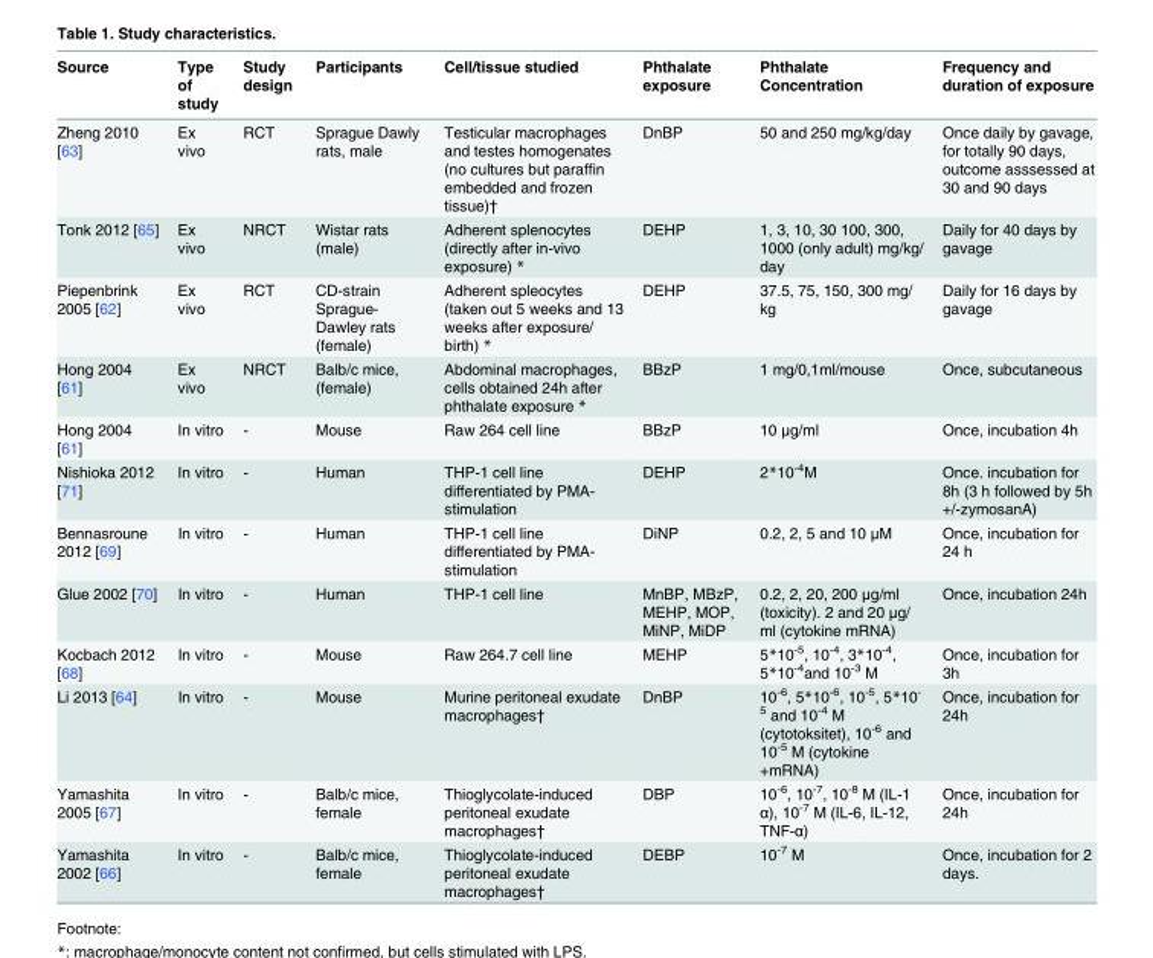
<table><thead><tr><td>Source</td><td>Type of study</td><td>Study design</td><td>Participants</td><td>Cell/tissue studied</td><td>Phthalate exposure</td><td>Phthalate Concentration</td><td>Frequency and duration of exposure</td></tr></thead><tbody><tr><td>Zheng 2010 [63]</td><td>Ex vivo</td><td>RCT</td><td>Sprague Dawly rats, male</td><td>Testicular macrophages and testes homogenates (no cultures but paraffin embedded and frozen tissue)†</td><td>DnBP</td><td>50 and 250 mg/kg/day</td><td>Once daily by gavage, for totally 90 days, outcome asssessed at 30 and 90 days</td></tr><tr><td>Tonk 2012 [65]</td><td>Ex vivo</td><td>NRCT</td><td>Wistar rats (male)</td><td>Adherent splenocytes (directly after in-vivo exposure) *</td><td>DEHP</td><td>1, 3, 10, 30 100, 300, 1000 (only adult) mg/kg/ day</td><td>Daily for 40 days by gavage</td></tr><tr><td>Piepenbrink 2005 [62]</td><td>Ex vivo</td><td>RCT</td><td>CD-strain Sprague- Dawley rats (female)</td><td>Adherent spleocytes (taken out 5 weeks and 13 weeks after exposure/ birth) *</td><td>DEHP</td><td>37.5, 75, 150, 300 mg/ kg</td><td>Daily for 16 days by gavage</td></tr><tr><td>Hong 2004 [61]</td><td>Ex vivo</td><td>NRCT</td><td>Balb/c mice, (female)</td><td>Abdominal macrophages, cells obtained 24h after phthalate exposure *</td><td>BBzP</td><td>1 mg/0,1ml/mouse</td><td>Once, subcutaneous</td></tr><tr><td>Hong 2004 [61]</td><td>In vitro</td><td>-</td><td>Mouse</td><td>Raw 264 cell line</td><td>BBzP</td><td>10 μg/ml</td><td>Once, incubation 4h</td></tr><tr><td>Nishioka 2012 [71]</td><td>In vitro</td><td>-</td><td>Human</td><td>THP-1 cell line differentiated by PMA- stimulation</td><td>DEHP</td><td>2*10<sup>-4</sup>M</td><td>Once. incubation for 8h (3 h followed by 5h +/-zymosanA)</td></tr><tr><td>Bennasroune 2012 [69]</td><td>In vitro</td><td>-</td><td>Human</td><td>THP-1 cell line differentiated by PMA- stimulation</td><td>DiNP</td><td>0.2, 2, 5 and 10 μM</td><td>Once, incubation for 24 h</td></tr><tr><td>Glue 2002 [70]</td><td>In vitro</td><td>-</td><td>Human</td><td>THP-1 cell line</td><td>MnBP, MBzP, MEHP, MOP, MiNP, MiDP</td><td>0.2, 2, 20, 200 μg/ml (toxicity). 2 and 20 μg/ ml (cytokine mRNA)</td><td>Once, incubation 24h</td></tr><tr><td>Kocbach 2012 [68]</td><td>In vitro</td><td>-</td><td>Mouse</td><td>Raw 264.7 cell line</td><td>MEHP</td><td>5*10<sup>-5</sup>, 10<sup>-4</sup>, 3*10<sup>-4</sup>, 5*10<sup>-4</sup>and 10<sup>-3</sup> M</td><td>Once, incubation for 3h</td></tr><tr><td>Li 2013 [64]</td><td>In vitro</td><td>-</td><td>Mouse</td><td>Murine peritoneal exudate macrophages†</td><td>DnBP</td><td>10<sup>-6</sup>, 5*10<sup>-6</sup>, 10<sup>-5</sup>, 5*10<sup>- 5</sup> and 10<sup>-4</sup> M (cytotoksitet), 10<sup>-6</sup> and 10<sup>-5</sup> M (cytokine +mRNA)</td><td>Once, incubation for 24h</td></tr><tr><td>Yamashita 2005 [67]</td><td>In vitro</td><td>-</td><td>Balb/c mice, female</td><td>Thioglycolate-induced peritoneal exudate macrophages†</td><td>DBP</td><td>10<sup>-6</sup>, 10<sup>-7</sup>, 10<sup>-8</sup> M (IL-1 α), 10<sup>-7</sup> M (IL-6, IL-12, TNF-α)</td><td>Once, incubation for 24h</td></tr><tr><td>Yamashita 2002 [66]</td><td>In vitro</td><td>-</td><td>Balb/c mice, female</td><td>Thioglycolate-induced peritoneal exudate macrophages†</td><td>DEBP</td><td>10<sup>-7</sup> M</td><td>Once, incubation for 2 days.</td></tr></tbody></table>